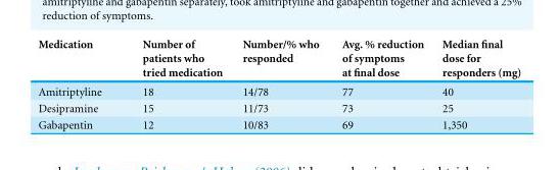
<table><thead><tr><td>Medication</td><td>Number of patients who tried medication</td><td>Number/% who responded</td><td>Avg. % reduction of symptoms at final dose</td><td>Median final dose for responders (mg)</td></tr></thead><tbody><tr><td>Amitriptyline</td><td>18</td><td>14/78</td><td>77</td><td>40</td></tr><tr><td>Desipramine</td><td>15</td><td>11/73</td><td>73</td><td>25</td></tr><tr><td>Gabapentin</td><td>12</td><td>10/83</td><td>69</td><td>1,350</td></tr></tbody></table>